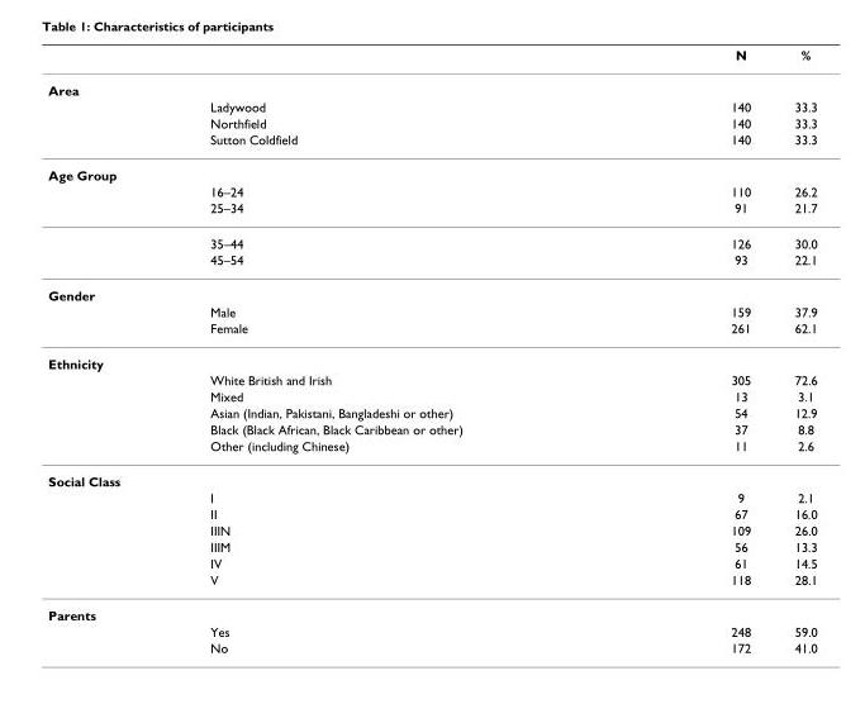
<table><thead><tr><td></td><td></td><td>N</td><td>%</td></tr></thead><tbody><tr><td colspan="4">Area</td></tr><tr><td></td><td>Ladywood</td><td>140</td><td>33.3</td></tr><tr><td></td><td>Northfield</td><td>140</td><td>33.3</td></tr><tr><td></td><td>Sutton Coldfield</td><td>140</td><td>33.3</td></tr><tr><td colspan="4">Age Group</td></tr><tr><td></td><td>16–24</td><td>110</td><td>26.2</td></tr><tr><td></td><td>25–34</td><td>91</td><td>21.7</td></tr><tr><td></td><td>35–44</td><td>126</td><td>30.0</td></tr><tr><td></td><td>45–54</td><td>93</td><td>22.1</td></tr><tr><td colspan="4">Gender</td></tr><tr><td></td><td>Male</td><td>159</td><td>37.9</td></tr><tr><td></td><td>Female</td><td>261</td><td>62.1</td></tr><tr><td colspan="4">Ethnicity</td></tr><tr><td></td><td>White British and Irish</td><td>305</td><td>72.6</td></tr><tr><td></td><td>Mixed</td><td>13</td><td>3.1</td></tr><tr><td></td><td>Asian (Indian, Pakistani, Bangladeshi or other)</td><td>54</td><td>12.9</td></tr><tr><td></td><td>Black (Black African, Black Caribbean or other)</td><td>37</td><td>8.8</td></tr><tr><td></td><td>Other (including Chinese)</td><td>11</td><td>2.6</td></tr><tr><td colspan="4">Social Class</td></tr><tr><td></td><td>I</td><td>9</td><td>2.1</td></tr><tr><td></td><td>II</td><td>67</td><td>16.0</td></tr><tr><td></td><td>IIIN</td><td>109</td><td>26.0</td></tr><tr><td></td><td>IIIM</td><td>56</td><td>13.3</td></tr><tr><td></td><td>IV</td><td>61</td><td>14.5</td></tr><tr><td></td><td>V</td><td>118</td><td>28.1</td></tr><tr><td colspan="4">Parents</td></tr><tr><td></td><td>Yes</td><td>248</td><td>59.0</td></tr><tr><td></td><td>No</td><td>172</td><td>41.0</td></tr></tbody></table>